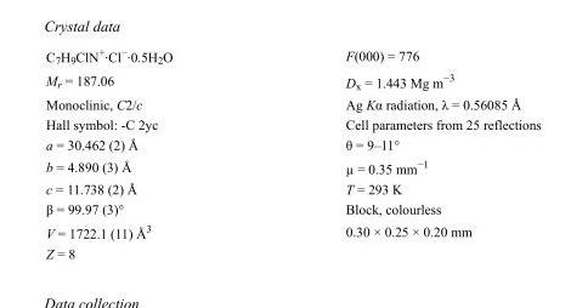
<table><tbody><tr><td>C<sub>7</sub>H<sub>9</sub>ClN<sup>+</sup>·Cl<sup>−</sup>·0.5H<sub>2</sub>O</td><td>F(000) = 776</td></tr><tr><td>M<sub>r</sub> = 187.06</td><td>D<sub>x</sub> = 1.443 Mg m<sup>−3</sup></td></tr><tr><td>Monoclinic, C2/c</td><td>Ag Kα radiation, λ = 0.56085 Å</td></tr><tr><td>Hall symbol: -C 2yc</td><td>Cell parameters from 25 reflections</td></tr><tr><td>a = 30.462 (2) Å</td><td>θ = 9–11°</td></tr><tr><td>b = 4.890 (3) Å</td><td>µ = 0.35 mm<sup>−1</sup></td></tr><tr><td>c = 11.738 (2) Å</td><td>T = 293 K</td></tr><tr><td>β = 99.97 (3)°</td><td>Block, colourless</td></tr><tr><td>V = 1722.1 (11) Å<sup>3</sup></td><td>0.30 × 0.25 × 0.20 mm</td></tr><tr><td>Z = 8</td><td></td></tr></tbody></table>